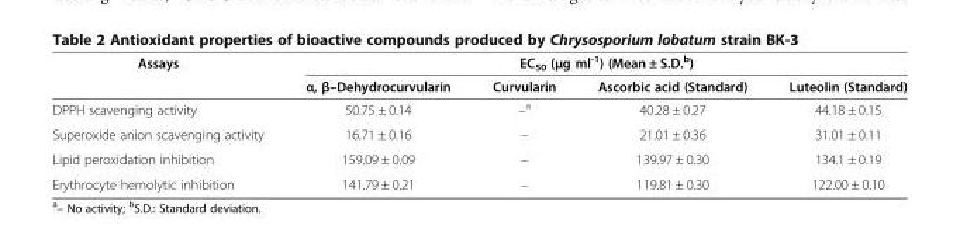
<table><thead><tr><td rowspan="2">Assays</td><td colspan="4">EC<sub>50</sub> (μg ml<sup>-1</sup>) (Mean ± S.D.<sup>b</sup>)</td></tr><tr><td>α, β–Dehydrocurvularin</td><td>Curvularin</td><td>Ascorbic acid (Standard)</td><td>Luteolin (Standard)</td></tr></thead><tbody><tr><td>DPPH scavenging activity</td><td>50.75 ± 0.14</td><td>–<sup>a</sup></td><td>40.28 ± 0.27</td><td>44.18 ± 0.15</td></tr><tr><td>Superoxide anion scavenging activity</td><td>16.71 ± 0.16</td><td>–</td><td>21.01 ± 0.36</td><td>31.01 ± 0.11</td></tr><tr><td>Lipid peroxidation inhibition</td><td>159.09 ± 0.09</td><td>–</td><td>139.97 ± 0.30</td><td>134.1 ± 0.19</td></tr><tr><td>Erythrocyte hemolytic inhibition</td><td>141.79 ± 0.21</td><td>–</td><td>119.81 ± 0.30</td><td>122.00 ± 0.10</td></tr></tbody></table>